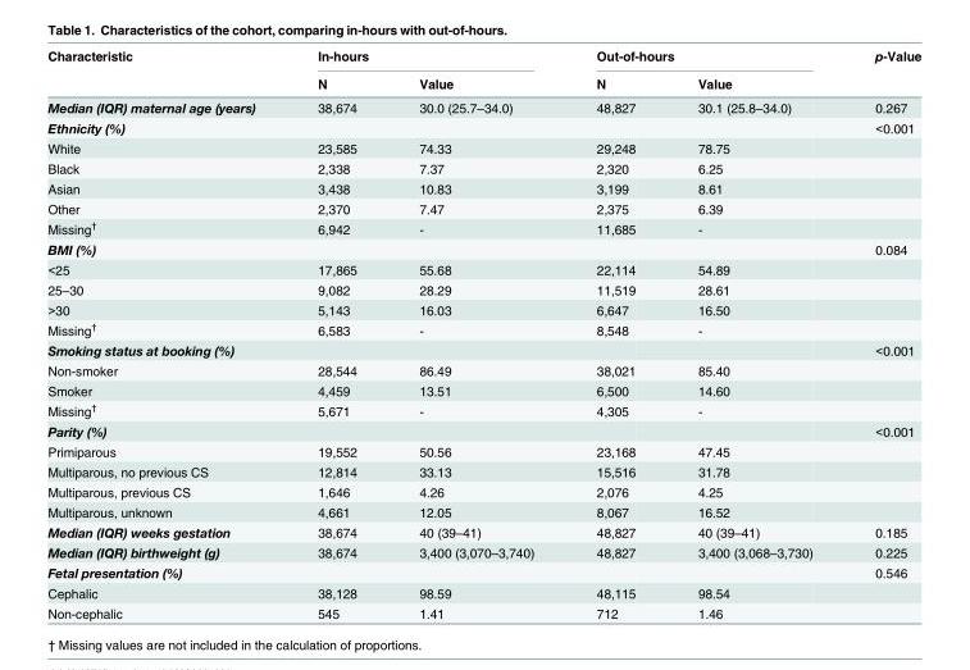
<table><thead><tr><td rowspan="2">Characteristic</td><td colspan="2">In-hours</td><td colspan="2">Out-of-hours</td><td rowspan="2">p-Value</td></tr><tr><td>N</td><td>Value</td><td>N</td><td>Value</td></tr></thead><tbody><tr><td>Median (IQR) maternal age (years)</td><td>38,674</td><td>30.0 (25.7–34.0)</td><td>48,827</td><td>30.1 (25.8–34.0)</td><td>0.267</td></tr><tr><td>Ethnicity (%)</td><td></td><td></td><td></td><td></td><td>&lt;0.001</td></tr><tr><td>White</td><td>23,585</td><td>74.33</td><td>29,248</td><td>78.75</td><td></td></tr><tr><td>Black</td><td>2,338</td><td>7.37</td><td>2,320</td><td>6.25</td><td></td></tr><tr><td>Asian</td><td>3,438</td><td>10.83</td><td>3,199</td><td>8.61</td><td></td></tr><tr><td>Other</td><td>2,370</td><td>7.47</td><td>2,375</td><td>6.39</td><td></td></tr><tr><td>Missing<sup>†</sup></td><td>6,942</td><td>-</td><td>11,685</td><td>-</td><td></td></tr><tr><td>BMI (%)</td><td></td><td></td><td></td><td></td><td>0.084</td></tr><tr><td>&lt;25</td><td>17,865</td><td>55.68</td><td>22,114</td><td>54.89</td><td></td></tr><tr><td>25–30</td><td>9,082</td><td>28.29</td><td>11,519</td><td>28.61</td><td></td></tr><tr><td>&gt;30</td><td>5,143</td><td>16.03</td><td>6,647</td><td>16.50</td><td></td></tr><tr><td>Missing<sup>†</sup></td><td>6,583</td><td>-</td><td>8,548</td><td>-</td><td></td></tr><tr><td>Smoking status at booking (%)</td><td></td><td></td><td></td><td></td><td>&lt;0.001</td></tr><tr><td>Non-smoker</td><td>28,544</td><td>86.49</td><td>38,021</td><td>85.40</td><td></td></tr><tr><td>Smoker</td><td>4,459</td><td>13.51</td><td>6,500</td><td>14.60</td><td></td></tr><tr><td>Missing<sup>†</sup></td><td>5,671</td><td>-</td><td>4,305</td><td>-</td><td></td></tr><tr><td>Parity (%)</td><td></td><td></td><td></td><td></td><td>&lt;0.001</td></tr><tr><td>Primiparous</td><td>19,552</td><td>50.56</td><td>23,168</td><td>47.45</td><td></td></tr><tr><td>Multiparous, no previous CS</td><td>12,814</td><td>33.13</td><td>15,516</td><td>31.78</td><td></td></tr><tr><td>Multiparous, previous CS</td><td>1,646</td><td>4.26</td><td>2,076</td><td>4.25</td><td></td></tr><tr><td>Multiparous, unknown</td><td>4,661</td><td>12.05</td><td>8,067</td><td>16.52</td><td></td></tr><tr><td>Median (IQR) weeks gestation</td><td>38,674</td><td>40 (39–41)</td><td>48,827</td><td>40 (39–41)</td><td>0.185</td></tr><tr><td>Median (IQR) birthweight (g)</td><td>38,674</td><td>3,400 (3,070–3,740)</td><td>48,827</td><td>3,400 (3,068–3,730)</td><td>0.225</td></tr><tr><td>Fetal presentation (%)</td><td></td><td></td><td></td><td></td><td>0.546</td></tr><tr><td>Cephalic</td><td>38,128</td><td>98.59</td><td>48,115</td><td>98.54</td><td></td></tr><tr><td>Non-cephalic</td><td>545</td><td>1.41</td><td>712</td><td>1.46</td><td></td></tr></tbody></table>